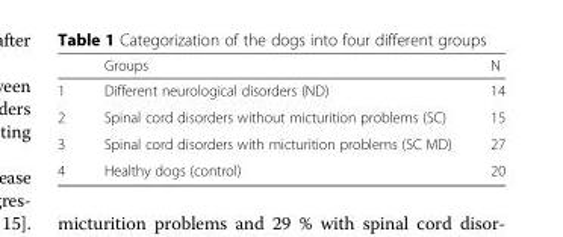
<table><thead><tr><td></td><td>Groups</td><td>N</td></tr></thead><tbody><tr><td>1</td><td>Different neurological disorders (ND)</td><td>14</td></tr><tr><td>2</td><td>Spinal cord disorders without micturition problems (SC)</td><td>15</td></tr><tr><td>3</td><td>Spinal cord disorders with micturition problems (SC MD)</td><td>27</td></tr><tr><td>4</td><td>Healthy dogs (control)</td><td>20</td></tr></tbody></table>